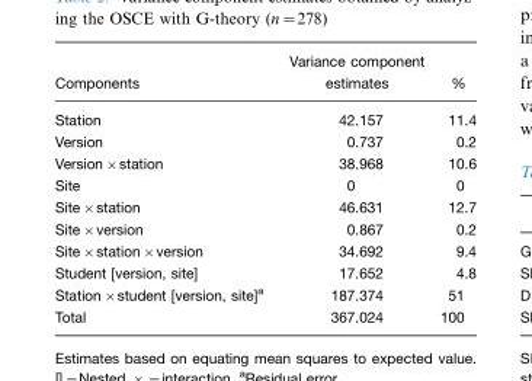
<table><thead><tr><td>Components</td><td>Variance component estimates</td><td>%</td></tr></thead><tbody><tr><td>Station</td><td>42.157</td><td>11.4</td></tr><tr><td>Version</td><td>0.737</td><td>0.2</td></tr><tr><td>Version×station</td><td>38.968</td><td>10.6</td></tr><tr><td>Site</td><td>0</td><td>0</td></tr><tr><td>Site×station</td><td>46.631</td><td>12.7</td></tr><tr><td>Site×version</td><td>0.867</td><td>0.2</td></tr><tr><td>Site×station×version</td><td>34.692</td><td>9.4</td></tr><tr><td>Student [version, site]</td><td>17.652</td><td>4.8</td></tr><tr><td>Station×student [version, site]<sup>a</sup></td><td>187.374</td><td>51</td></tr><tr><td>Total</td><td>367.024</td><td>100</td></tr></tbody></table>